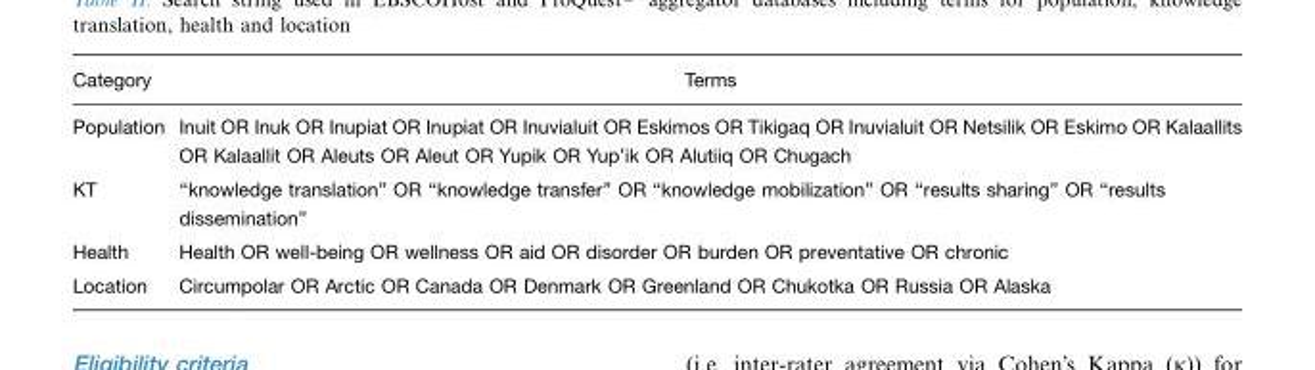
<table><thead><tr><td>Category</td><td>Terms</td></tr></thead><tbody><tr><td>Population</td><td>Inuit OR Inuk OR Inupiat OR Inupiat OR Inuvialuit OR Eskimos OR Tikigaq OR Inuvialuit OR Netsilik OR Eskimo OR Kalaallits OR Kalaallit OR Aleuts OR Aleut OR Yupik OR Yup’ik OR Alutiiq OR Chugach</td></tr><tr><td>KT</td><td>‘‘knowledge translation’’ OR ‘‘knowledge transfer’’ OR ‘‘knowledge mobilization’’ OR ‘‘results sharing’’ OR ‘‘results dissemination’’</td></tr><tr><td>Health</td><td>Health OR well-being OR wellness OR aid OR disorder OR burden OR preventative OR chronic</td></tr><tr><td>Location</td><td>Circumpolar OR Arctic OR Canada OR Denmark OR Greenland OR Chukotka OR Russia OR Alaska</td></tr></tbody></table>